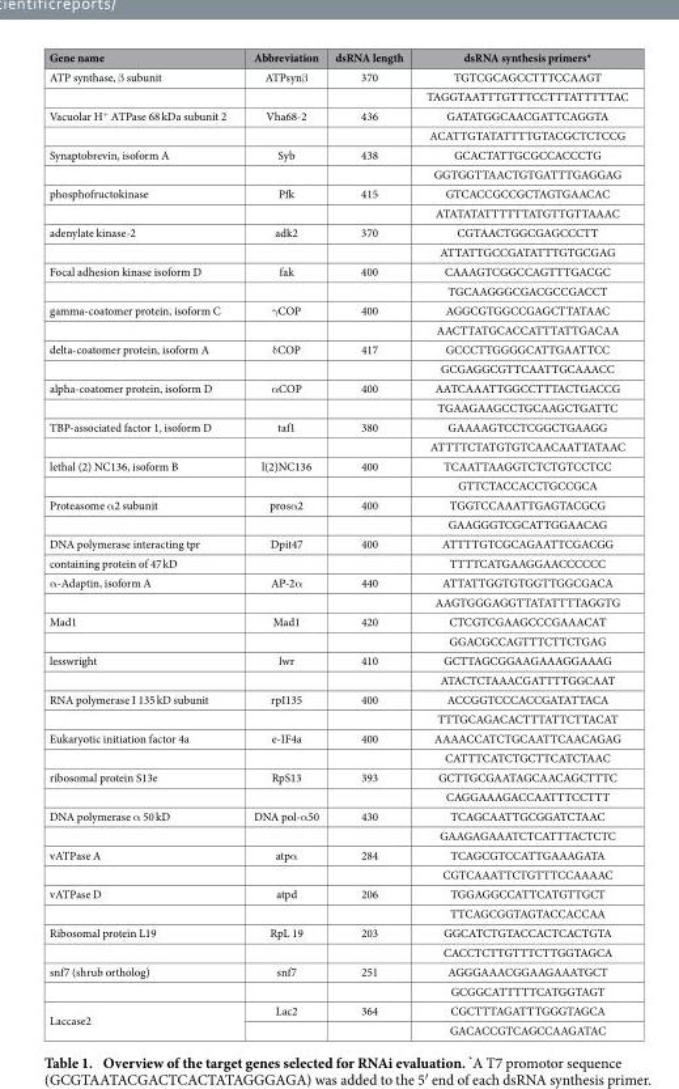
<table><thead><tr><td>Gene name</td><td>Abbreviation</td><td>dsRNA length</td><td>dsRNA synthesis primers*</td></tr></thead><tbody><tr><td rowspan="2">ATP synthase, β subunit</td><td>ATPsynβ</td><td>370</td><td>TGTCGCAGCCTTTCCAAGT</td></tr><tr><td></td><td></td><td>TAGGTAATTTGTTTCCTTTATTTTTAC</td></tr><tr><td rowspan="2">Vacuolar H<sup>+</sup> ATPase 68 kDa subunit 2</td><td>Vha68-2</td><td>436</td><td>GATATGGCAACGATTCAGGTA</td></tr><tr><td></td><td></td><td>ACATTGTATATTTTGTACGCTCTCCG</td></tr><tr><td rowspan="2">Synaptobrevin, isoform A</td><td>Syb</td><td>438</td><td>GCACTATTGCGCCACCCTG</td></tr><tr><td></td><td></td><td>GGTGGTTAACTGTGATTTGAGGAG</td></tr><tr><td rowspan="2">phosphofructokinase</td><td>Pfk</td><td>415</td><td>GTCACCGCCGCTAGTGAACAC</td></tr><tr><td></td><td></td><td>ATATATATTTTTTATGTTGTTAAAC</td></tr><tr><td rowspan="2">adenylate kinase-2</td><td>adk2</td><td>370</td><td>CGTAACTGGCGAGCCCTT</td></tr><tr><td></td><td></td><td>ATTATTGCCGATATTTGTGCGAG</td></tr><tr><td rowspan="2">Focal adhesion kinase isoform D</td><td>fak</td><td>400</td><td>CAAAGTCGGCCAGTTTGACGC</td></tr><tr><td></td><td></td><td>TGCAAGGGCGACGCCGACCT</td></tr><tr><td rowspan="2">gamma-coatomer protein, isoform C</td><td>γ COP</td><td>400</td><td>AGGCGTGGCCGAGCTTATAAC</td></tr><tr><td></td><td></td><td>AACTTATGCACCATTTATTGACAA</td></tr><tr><td rowspan="2">delta-coatomer protein, isoform A</td><td>δ COP</td><td>417</td><td>GCCCTTGGGGCATTGAATTCC</td></tr><tr><td></td><td></td><td>GCGAGGCGTTCAATTGCAAACC</td></tr><tr><td rowspan="2">alpha-coatomer protein, isoform D</td><td>α COP</td><td>400</td><td>AATCAAATTGGCCTTTACTGACCG</td></tr><tr><td></td><td></td><td>TGAAGAAGCCTGCAAGCTGATTC</td></tr><tr><td rowspan="2">TBP-associated factor 1, isoform D</td><td>taf1</td><td>380</td><td>GAAAAGTCCTCGGCTGAAGG</td></tr><tr><td></td><td></td><td>ATTTTCTATGTGTCAACAATTATAAC</td></tr><tr><td rowspan="2">lethal (2) NC136, isoform B</td><td>l(2)NC136</td><td>400</td><td>TCAATTAAGGTCTCTGTCCTCC</td></tr><tr><td></td><td></td><td>GTTCTACCACCTGCCGCA</td></tr><tr><td rowspan="2">Proteasome α 2 subunit</td><td>prosα 2</td><td>400</td><td>TGGTCCAAATTGAGTACGCG</td></tr><tr><td></td><td></td><td>GAAGGGTCGCATTGGAACAG</td></tr><tr><td>DNA polymerase interacting tpr</td><td>Dpit47</td><td>400</td><td>ATTTTGTCGCAGAATTCGACGG</td></tr><tr><td>containing protein of 47 kD</td><td></td><td></td><td>TTTTCATGAAGGAACCCCCC</td></tr><tr><td rowspan="2">α -Adaptin, isoform A</td><td>AP-2α</td><td>440</td><td>ATTATTGGTGTGGTTGGCGACA</td></tr><tr><td></td><td></td><td>AAGTGGGAGGTTATATTTTAGGTG</td></tr><tr><td rowspan="2">Mad1</td><td>Mad1</td><td>420</td><td>CTCGTCGAAGCCCGAAACAT</td></tr><tr><td></td><td></td><td>GGACGCCAGTTTCTTCTGAG</td></tr><tr><td rowspan="2">lesswright</td><td>lwr</td><td>410</td><td>GCTTAGCGGAAGAAAGGAAAG</td></tr><tr><td></td><td></td><td>ATACTCTAAACGATTTTGGCAAT</td></tr><tr><td rowspan="2">RNA polymerase I 135 kD subunit</td><td>rpI135</td><td>400</td><td>ACCGGTCCCACCGATATTACA</td></tr><tr><td></td><td></td><td>TTTGCAGACACTTTATTCTTACAT</td></tr><tr><td rowspan="2">Eukaryotic initiation factor 4a</td><td>e-IF4a</td><td>400</td><td>AAAACCATCTGCAATTCAACAGAG</td></tr><tr><td></td><td></td><td>CATTTCATCTGCTTCATCTAAC</td></tr><tr><td rowspan="2">ribosomal protein S13e</td><td>RpS13</td><td>393</td><td>GCTTGCGAATAGCAACAGCTTTC</td></tr><tr><td></td><td></td><td>CAGGAAAGACCAATTTCCTTT</td></tr><tr><td rowspan="2">DNA polymerase α 50 kD</td><td>DNA pol-α 50</td><td>430</td><td>TCAGCAATTGCGGATCTAAC</td></tr><tr><td></td><td></td><td>GAAGAGAAATCTCATTTACTCTC</td></tr><tr><td rowspan="2">vATPase A</td><td>atpα</td><td>284</td><td>TCAGCGTCCATTGAAAGATA</td></tr><tr><td></td><td></td><td>CGTCAAATTCTGTTTCCAAAAC</td></tr><tr><td rowspan="2">vATPase D</td><td>atpd</td><td>206</td><td>TGGAGGCCATTCATGTTGCT</td></tr><tr><td></td><td></td><td>TTCAGCGGTAGTACCACCAA</td></tr><tr><td rowspan="2">Ribosomal protein L19</td><td>RpL 19</td><td>203</td><td>GGCATCTGTACCACTCACTGTA</td></tr><tr><td></td><td></td><td>CACCTCTTGTTTCTTGGTAGCA</td></tr><tr><td rowspan="2">snf7 (shrub ortholog)</td><td>snf7</td><td>251</td><td>AGGGAAACGGAAGAAATGCT</td></tr><tr><td></td><td></td><td>GCGGCATTTTTCATGGTAGT</td></tr><tr><td rowspan="2">Laccase2</td><td>Lac2</td><td>364</td><td>CGCTTTAGATTTGGGTAGCA</td></tr><tr><td></td><td></td><td>GACACCGTCAGCCAAGATAC</td></tr></tbody></table>